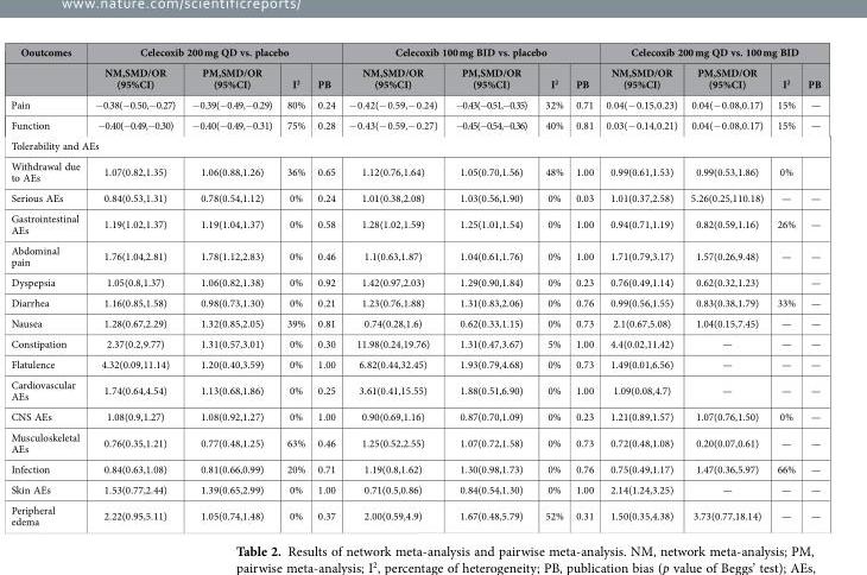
<table><thead><tr><td rowspan="2">Ooutcomes</td><td colspan="4">Celecoxib 200 mg QD vs. placebo</td><td colspan="4">Celecoxib 100 mg BID vs. placebo</td><td colspan="4">Celecoxib 200 mg QD vs. 100 mg BID</td></tr><tr><td>NM,SMD/OR (95%CI)</td><td>PM,SMD/OR (95%CI)</td><td>I<sup>2</sup></td><td>PB</td><td>NM,SMD/OR (95%CI)</td><td>PM,SMD/OR (95%CI)</td><td>I<sup>2</sup></td><td>PB</td><td>NM,SMD/OR (95%CI)</td><td>PM,SMD/OR (95%CI)</td><td>I<sup>2</sup></td><td>PB</td></tr></thead><tbody><tr><td>Pain</td><td>− 0.38(− 0.50,− 0.27)</td><td>− 0.39(− 0.49,− 0.29)</td><td>80%</td><td>0.24</td><td>− 0.42(− 0.59,− 0.24)</td><td>− 0.43(− 0.51,− 0.35)</td><td>32%</td><td>0.71</td><td>0.04(− 0.15,0.23)</td><td>0.04(− 0.08,0.17)</td><td>15%</td><td>—</td></tr><tr><td>Function</td><td>− 0.40(− 0.49,− 0.30)</td><td>− 0.40(− 0.49,− 0.31)</td><td>75%</td><td>0.28</td><td>− 0.43(− 0.59,− 0.27)</td><td>− 0.45(− 0.54,− 0.36)</td><td>40%</td><td>0.81</td><td>0.03(− 0.14,0.21)</td><td>0.04(− 0.08,0.17)</td><td>15%</td><td>—</td></tr><tr><td colspan="13">Tolerability and AEs</td></tr><tr><td>Withdrawal due to AEs</td><td>1.07(0.82,1.35)</td><td>1.06(0.88,1.26)</td><td>36%</td><td>0.65</td><td>1.12(0.76,1.64)</td><td>1.05(0.70,1.56)</td><td>48%</td><td>1.00</td><td>0.99(0.61,1.53)</td><td>0.99(0.53,1.86)</td><td>0%</td><td></td></tr><tr><td>Serious AEs</td><td>0.84(0.53,1.31)</td><td>0.78(0.54,1.12)</td><td>0%</td><td>0.24</td><td>1.01(0.38,2.08)</td><td>1.03(0.56,1.90)</td><td>0%</td><td>0.03</td><td>1.01(0.37,2.58)</td><td>5.26(0.25,110.18)</td><td>—</td><td>—</td></tr><tr><td>Gastrointestinal AEs</td><td>1.19(1.02,1.37)</td><td>1.19(1.04,1.37)</td><td>0%</td><td>0.58</td><td>1.28(1.02,1.59)</td><td>1.25(1.01,1.54)</td><td>0%</td><td>1.00</td><td>0.94(0.71,1.19)</td><td>0.82(0.59,1.16)</td><td>26%</td><td>—</td></tr><tr><td>Abdominal pain</td><td>1.76(1.04,2.81)</td><td>1.78(1.12,2.83)</td><td>0%</td><td>0.46</td><td>1.1(0.63,1.87)</td><td>1.04(0.61,1.76)</td><td>0%</td><td>1.00</td><td>1.71(0.79,3.17)</td><td>1.57(0.26,9.48)</td><td>—</td><td>—</td></tr><tr><td>Dyspepsia</td><td>1.05(0.8,1.37)</td><td>1.06(0.82,1.38)</td><td>0%</td><td>0.92</td><td>1.42(0.97,2.03)</td><td>1.29(0.90,1.84)</td><td>0%</td><td>0.23</td><td>0.76(0.49,1.14)</td><td>0.62(0.32,1.23)</td><td></td><td>—</td></tr><tr><td>Diarrhea</td><td>1.16(0.85,1.58)</td><td>0.98(0.73,1.30)</td><td>0%</td><td>0.21</td><td>1.23(0.76,1.88)</td><td>1.31(0.83,2.06)</td><td>0%</td><td>0.76</td><td>0.99(0.56,1.55)</td><td>0.83(0.38,1.79)</td><td>33%</td><td>—</td></tr><tr><td>Nausea</td><td>1.28(0.67,2.29)</td><td>1.32(0.85,2.05)</td><td>39%</td><td>0.81</td><td>0.74(0.28,1.6)</td><td>0.62(0.33,1.15)</td><td>0%</td><td>0.73</td><td>2.1(0.67,5.08)</td><td>1.04(0.15,7.45)</td><td>—</td><td>—</td></tr><tr><td>Constipation</td><td>2.37(0.2,9.77)</td><td>1.31(0.57,3.01)</td><td>0%</td><td>0.30</td><td>11.98(0.24,19.76)</td><td>1.31(0.47,3.67)</td><td>5%</td><td>1.00</td><td>4.4(0.02,11.42)</td><td>—</td><td>—</td><td>—</td></tr><tr><td>Flatulence</td><td>4.32(0.09,11.14)</td><td>1.20(0.40,3.59)</td><td>0%</td><td>1.00</td><td>6.82(0.44,32.45)</td><td>1.93(0.79,4.68)</td><td>0%</td><td>0.73</td><td>1.49(0.01,6.56)</td><td>—</td><td>—</td><td>—</td></tr><tr><td>Cardiovascular AEs</td><td>1.74(0.64,4.54)</td><td>1.13(0.68,1.86)</td><td>0%</td><td>0.25</td><td>3.61(0.41,15.55)</td><td>1.88(0.51,6.90)</td><td>0%</td><td>1.00</td><td>1.09(0.08,4.7)</td><td>—</td><td>—</td><td>—</td></tr><tr><td>CNS AEs</td><td>1.08(0.9,1.27)</td><td>1.08(0.92,1.27)</td><td>0%</td><td>1.00</td><td>0.90(0.69,1.16)</td><td>0.87(0.70,1.09)</td><td>0%</td><td>0.23</td><td>1.21(0.89,1.57)</td><td>1.07(0.76,1.50)</td><td>0%</td><td>—</td></tr><tr><td>Musculoskeletal AEs</td><td>0.76(0.35,1.21)</td><td>0.77(0.48,1.25)</td><td>63%</td><td>0.46</td><td>1.25(0.52,2.55)</td><td>1.07(0.72,1.58)</td><td>0%</td><td>0.73</td><td>0.72(0.48,1.08)</td><td>0.20(0.07,0.61)</td><td>—</td><td>—</td></tr><tr><td>Infection</td><td>0.84(0.63,1.08)</td><td>0.81(0.66,0.99)</td><td>20%</td><td>0.71</td><td>1.19(0.8,1.62)</td><td>1.30(0.98,1.73)</td><td>0%</td><td>0.76</td><td>0.75(0.49,1.17)</td><td>1.47(0.36,5.97)</td><td>66%</td><td>—</td></tr><tr><td>Skin AEs</td><td>1.53(0.77,2.44)</td><td>1.39(0.65,2.99)</td><td>0%</td><td>1.00</td><td>0.71(0.5,0.86)</td><td>0.84(0.54,1.30)</td><td>0%</td><td>1.00</td><td>2.14(1.24,3.25)</td><td>—</td><td>—</td><td>—</td></tr><tr><td>Peripheral edema</td><td>2.22(0.95,5.11)</td><td>1.05(0.74,1.48)</td><td>0%</td><td>0.37</td><td>2.00(0.59,4.9)</td><td>1.67(0.48,5.79)</td><td>52%</td><td>0.31</td><td>1.50(0.35,4.38)</td><td>3.73(0.77,18.14)</td><td>—</td><td>—</td></tr></tbody></table>